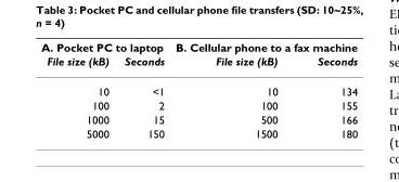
<table><thead><tr><td colspan="2">A. Pocket PC to laptop</td><td colspan="2">B. Cellular phone to a fax machine</td></tr><tr><td>File size (kB)</td><td>Seconds</td><td>File size (kB)</td><td>Seconds</td></tr></thead><tbody><tr><td>10</td><td>&lt;1</td><td>10</td><td>134</td></tr><tr><td>100</td><td>2</td><td>100</td><td>155</td></tr><tr><td>1000</td><td>15</td><td>500</td><td>166</td></tr><tr><td>5000</td><td>150</td><td>1500</td><td>180</td></tr></tbody></table>